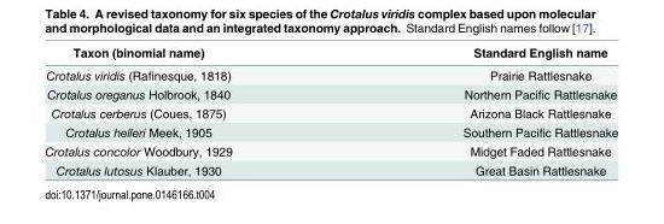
<table><thead><tr><td>Taxon (binomial name)</td><td>Standard English name</td></tr></thead><tbody><tr><td>Crotalus viridis (Rafinesque, 1818)</td><td>Prairie Rattlesnake</td></tr><tr><td>Crotalus oreganus Holbrook, 1840</td><td>Northern Pacific Rattlesnake</td></tr><tr><td>Crotalus cerberus (Coues, 1875)</td><td>Arizona Black Rattlesnake</td></tr><tr><td>Crotalus helleri Meek, 1905</td><td>Southern Pacific Rattlesnake</td></tr><tr><td>Crotalus concolor Woodbury, 1929</td><td>Midget Faded Rattlesnake</td></tr><tr><td>Crotalus lutosus Klauber, 1930</td><td>Great Basin Rattlesnake</td></tr></tbody></table>